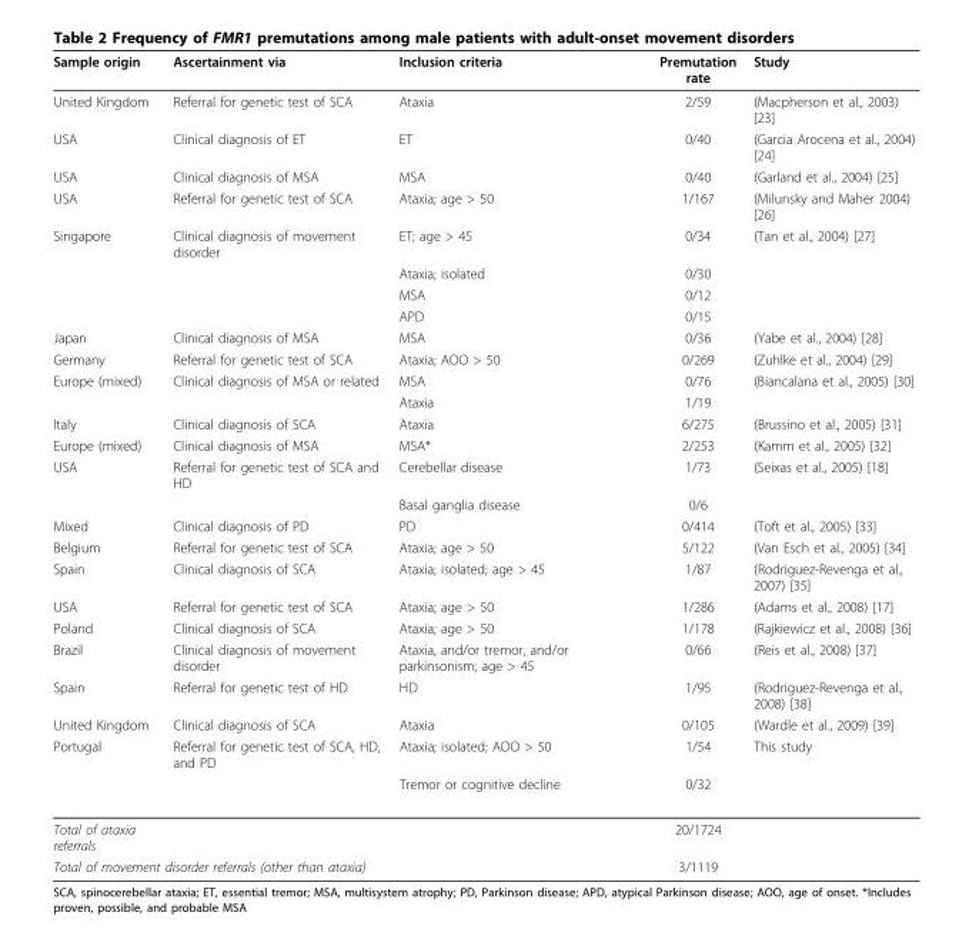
<table><thead><tr><td>Sample origin</td><td>Ascertainment via</td><td>Inclusion criteria</td><td>Premutation rate</td><td>Study</td></tr></thead><tbody><tr><td>United Kingdom</td><td>Referral for genetic test of SCA</td><td>Ataxia</td><td>2/59</td><td>(Macpherson et al., 2003) [23]</td></tr><tr><td>USA</td><td>Clinical diagnosis of ET</td><td>ET</td><td>0/40</td><td>(Garcia Arocena et al., 2004) [24]</td></tr><tr><td>USA</td><td>Clinical diagnosis of MSA</td><td>MSA</td><td>0/40</td><td>(Garland et al., 2004) [25]</td></tr><tr><td>USA</td><td>Referral for genetic test of SCA</td><td>Ataxia; age &gt; 50</td><td>1/167</td><td>(Milunsky and Maher 2004) [26]</td></tr><tr><td rowspan="4">Singapore</td><td>Clinical diagnosis of movement disorder</td><td>ET; age &gt; 45</td><td>0/34</td><td>(Tan et al., 2004) [27]</td></tr><tr><td></td><td>Ataxia; isolated</td><td>0/30</td><td></td></tr><tr><td></td><td>MSA</td><td>0/12</td><td></td></tr><tr><td></td><td>APD</td><td>0/15</td><td></td></tr><tr><td>Japan</td><td>Clinical diagnosis of MSA</td><td>MSA</td><td>0/36</td><td>(Yabe et al., 2004) [28]</td></tr><tr><td>Germany</td><td>Referral for genetic test of SCA</td><td>Ataxia; AOO &gt; 50</td><td>0/269</td><td>(Zuhlke et al., 2004) [29]</td></tr><tr><td rowspan="2">Europe (mixed)</td><td>Clinical diagnosis of MSA or related</td><td>MSA</td><td>0/76</td><td>(Biancalana et al., 2005) [30]</td></tr><tr><td></td><td>Ataxia</td><td>1/19</td><td></td></tr><tr><td>Italy</td><td>Clinical diagnosis of SCA</td><td>Ataxia</td><td>6/275</td><td>(Brussino et al., 2005) [31]</td></tr><tr><td>Europe (mixed)</td><td>Clinical diagnosis of MSA</td><td>MSA*</td><td>2/253</td><td>(Kamm et al., 2005) [32]</td></tr><tr><td rowspan="2">USA</td><td>Referral for genetic test of SCA and HD</td><td>Cerebellar disease</td><td>1/73</td><td>(Seixas et al., 2005) [18]</td></tr><tr><td></td><td>Basal ganglia disease</td><td>0/6</td><td></td></tr><tr><td>Mixed</td><td>Clinical diagnosis of PD</td><td>PD</td><td>0/414</td><td>(Toft et al., 2005) [33]</td></tr><tr><td>Belgium</td><td>Referral for genetic test of SCA</td><td>Ataxia; age &gt; 50</td><td>5/122</td><td>(Van Esch et al., 2005) [34]</td></tr><tr><td>Spain</td><td>Clinical diagnosis of SCA</td><td>Ataxia; isolated; age &gt; 45</td><td>1/87</td><td>(Rodriguez-Revenga et al., 2007) [35]</td></tr><tr><td>USA</td><td>Referral for genetic test of SCA</td><td>Ataxia; age &gt; 50</td><td>1/286</td><td>(Adams et al., 2008) [17]</td></tr><tr><td>Poland</td><td>Clinical diagnosis of SCA</td><td>Ataxia; age &gt; 50</td><td>1/178</td><td>(Rajkiewicz et al., 2008) [36]</td></tr><tr><td>Brazil</td><td>Clinical diagnosis of movement disorder</td><td>Ataxia, and/or tremor, and/or parkinsonism; age &gt; 45</td><td>0/66</td><td>(Reis et al., 2008) [37]</td></tr><tr><td>Spain</td><td>Referral for genetic test of HD</td><td>HD</td><td>1/95</td><td>(Rodriguez-Revenga et al., 2008) [38]</td></tr><tr><td>United Kingdom</td><td>Clinical diagnosis of SCA</td><td>Ataxia</td><td>0/105</td><td>(Wardle et al., 2009) [39]</td></tr><tr><td rowspan="2">Portugal</td><td>Referral for genetic test of SCA, HD, and PD</td><td>Ataxia; isolated; AOO &gt; 50</td><td>1/54</td><td>This study</td></tr><tr><td></td><td>Tremor or cognitive decline</td><td>0/32</td><td></td></tr><tr><td>Total of ataxia referrals</td><td></td><td></td><td>20/1724</td><td></td></tr><tr><td colspan="2">Total of movement disorder referrals (other than ataxia)</td><td></td><td>3/1119</td><td></td></tr></tbody></table>